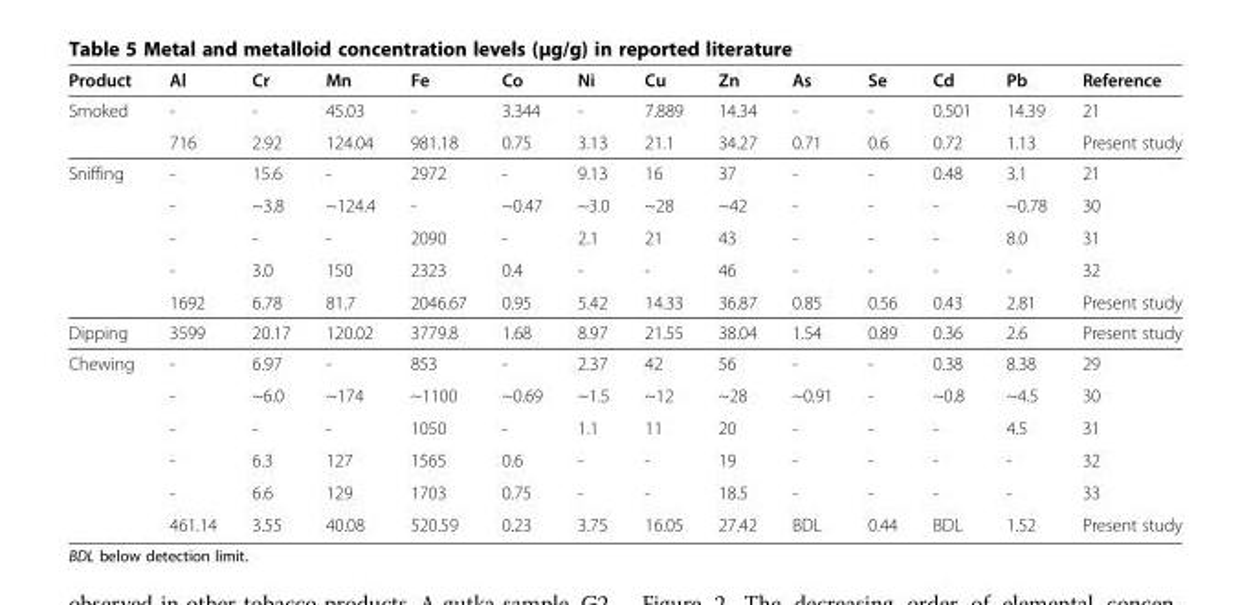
<table><thead><tr><td>Product</td><td>Al</td><td>Cr</td><td>Mn</td><td>Fe</td><td>Co</td><td>Ni</td><td>Cu</td><td>Zn</td><td>As</td><td>Se</td><td>Cd</td><td>Pb</td><td>Reference</td></tr></thead><tbody><tr><td rowspan="2">Smoked</td><td>-</td><td>-</td><td>45.03</td><td>-</td><td>3.344</td><td>-</td><td>7.889</td><td>14.34</td><td>-</td><td>-</td><td>0.501</td><td>14.39</td><td>21</td></tr><tr><td>716</td><td>2.92</td><td>124.04</td><td>981.18</td><td>0.75</td><td>3.13</td><td>21.1</td><td>34.27</td><td>0.71</td><td>0.6</td><td>0.72</td><td>1.13</td><td>Present study</td></tr><tr><td rowspan="5">Sniffing</td><td>-</td><td>15.6</td><td>-</td><td>2972</td><td>-</td><td>9.13</td><td>16</td><td>37</td><td>-</td><td>-</td><td>0.48</td><td>3.1</td><td>21</td></tr><tr><td>-</td><td>~3.8</td><td>~124.4</td><td>-</td><td>~0.47</td><td>~3.0</td><td>~28</td><td>~42</td><td>-</td><td>-</td><td>-</td><td>~0.78</td><td>30</td></tr><tr><td>-</td><td>-</td><td>-</td><td>2090</td><td>-</td><td>2.1</td><td>21</td><td>43</td><td>-</td><td>-</td><td>-</td><td>8.0</td><td>31</td></tr><tr><td>-</td><td>3.0</td><td>150</td><td>2323</td><td>0.4</td><td>-</td><td>-</td><td>46</td><td>-</td><td>-</td><td>-</td><td>-</td><td>32</td></tr><tr><td>1692</td><td>6.78</td><td>81.7</td><td>2046.67</td><td>0.95</td><td>5.42</td><td>14.33</td><td>36.87</td><td>0.85</td><td>0.56</td><td>0.43</td><td>2.81</td><td>Present study</td></tr><tr><td>Dipping</td><td>3599</td><td>20.17</td><td>120.02</td><td>3779.8</td><td>1.68</td><td>8.97</td><td>21.55</td><td>38.04</td><td>1.54</td><td>0.89</td><td>0.36</td><td>2.6</td><td>Present study</td></tr><tr><td rowspan="6">Chewing</td><td>-</td><td>6.97</td><td>-</td><td>853</td><td>-</td><td>2.37</td><td>42</td><td>56</td><td>-</td><td>-</td><td>0.38</td><td>8.38</td><td>29</td></tr><tr><td>-</td><td>~6.0</td><td>~174</td><td>~1100</td><td>~0.69</td><td>~1.5</td><td>~12</td><td>~28</td><td>~0.91</td><td>-</td><td>~0.8</td><td>~4.5</td><td>30</td></tr><tr><td>-</td><td>-</td><td>-</td><td>1050</td><td>-</td><td>1.1</td><td>11</td><td>20</td><td>-</td><td>-</td><td>-</td><td>4.5</td><td>31</td></tr><tr><td>-</td><td>6.3</td><td>127</td><td>1565</td><td>0.6</td><td>-</td><td>-</td><td>19</td><td>-</td><td>-</td><td>-</td><td>-</td><td>32</td></tr><tr><td>-</td><td>6.6</td><td>129</td><td>1703</td><td>0.75</td><td>-</td><td>-</td><td>18.5</td><td>-</td><td>-</td><td>-</td><td>-</td><td>33</td></tr><tr><td>461.14</td><td>3.55</td><td>40.08</td><td>520.59</td><td>0.23</td><td>3.75</td><td>16.05</td><td>27.42</td><td>BDL</td><td>0.44</td><td>BDL</td><td>1.52</td><td>Present study</td></tr></tbody></table>